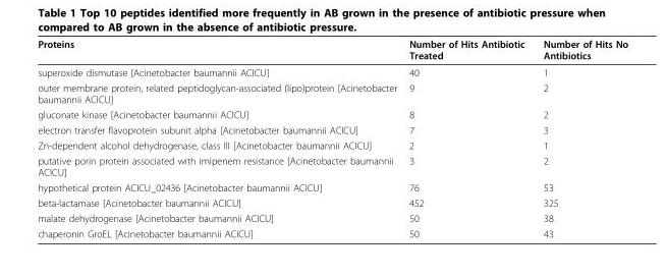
<table><thead><tr><td>Proteins</td><td>Number of Hits Antibiotic Treated</td><td>Number of Hits No Antibiotics</td></tr></thead><tbody><tr><td>superoxide dismutase [Acinetobacter baumannii ACICU]</td><td>40</td><td>1</td></tr><tr><td>outer membrane protein, related peptidoglycan-associated (lipo)protein [Acinetobacter baumannii ACICU]</td><td>9</td><td>2</td></tr><tr><td>gluconate kinase [Acinetobacter baumannii ACICU]</td><td>8</td><td>2</td></tr><tr><td>electron transfer flavoprotein subunit alpha [Acinetobacter baumannii ACICU]</td><td>7</td><td>3</td></tr><tr><td>Zn-dependent alcohol dehydrogenase, class III [Acinetobacter baumannii ACICU]</td><td>2</td><td>1</td></tr><tr><td>putative porin protein associated with imipenem resistance [Acinetobacter baumannii ACICU]</td><td>3</td><td>2</td></tr><tr><td>hypothetical protein ACICU_02436 [Acinetobacter baumannii ACICU]</td><td>76</td><td>53</td></tr><tr><td>beta-lactamase [Acinetobacter baumannii ACICU]</td><td>452</td><td>325</td></tr><tr><td>malate dehydrogenase [Acinetobacter baumannii ACICU]</td><td>50</td><td>38</td></tr><tr><td>chaperonin GroEL [Acinetobacter baumannii ACICU]</td><td>50</td><td>43</td></tr></tbody></table>